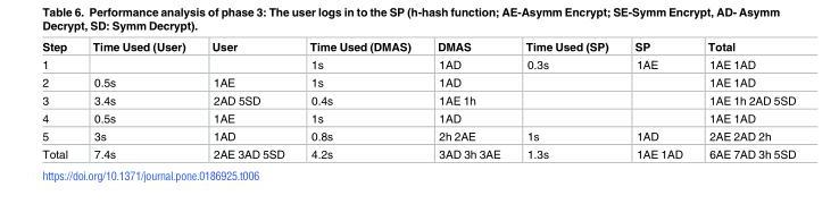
<table><thead><tr><td>Step</td><td>Time Used (User)</td><td>User</td><td>Time Used (DMAS)</td><td>DMAS</td><td>Time Used (SP)</td><td>SP</td><td>Total</td></tr></thead><tbody><tr><td>1</td><td></td><td></td><td>1s</td><td>1AD</td><td>0.3s</td><td>1AE</td><td>1AE 1AD</td></tr><tr><td>2</td><td>0.5s</td><td>1AE</td><td>1s</td><td>1AD</td><td></td><td></td><td>1AE 1AD</td></tr><tr><td>3</td><td>3.4s</td><td>2AD 5SD</td><td>0.4s</td><td>1AE 1h</td><td></td><td></td><td>1AE 1h 2AD 5SD</td></tr><tr><td>4</td><td>0.5s</td><td>1AE</td><td>1s</td><td>1AD</td><td></td><td></td><td>1AE 1AD</td></tr><tr><td>5</td><td>3s</td><td>1AD</td><td>0.8s</td><td>2h 2AE</td><td>1s</td><td>1AD</td><td>2AE 2AD 2h</td></tr><tr><td>Total</td><td>7.4s</td><td>2AE 3AD 5SD</td><td>4.2s</td><td>3AD 3h 3AE</td><td>1.3s</td><td>1AE 1AD</td><td>6AE 7AD 3h 5SD</td></tr></tbody></table>